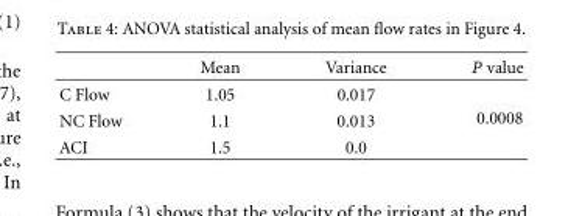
<table><thead><tr><td></td><td>Mean</td><td>Variance</td><td>P value</td></tr></thead><tbody><tr><td>C Flow</td><td>1.05</td><td>0.017</td><td rowspan="3">0.0008</td></tr><tr><td>NC Flow</td><td>1.1</td><td>0.013</td></tr><tr><td>ACI</td><td>1.5</td><td>0.0</td></tr></tbody></table>